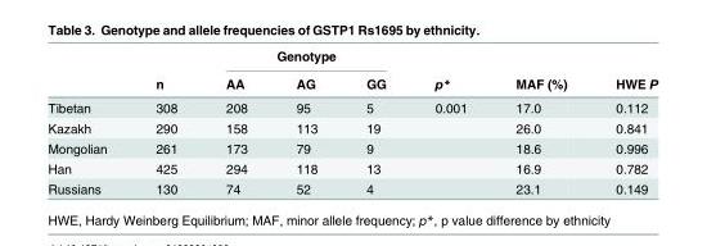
<table><thead><tr><td rowspan="2"></td><td rowspan="2">n</td><td colspan="3">Genotype</td><td rowspan="2">p*</td><td rowspan="2">MAF (%)</td><td rowspan="2">HWE P</td></tr><tr><td>AA</td><td>AG</td><td>GG</td></tr></thead><tbody><tr><td>Tibetan</td><td>308</td><td>208</td><td>95</td><td>5</td><td>0.001</td><td>17.0</td><td>0.112</td></tr><tr><td>Kazakh</td><td>290</td><td>158</td><td>113</td><td>19</td><td></td><td>26.0</td><td>0.841</td></tr><tr><td>Mongolian</td><td>261</td><td>173</td><td>79</td><td>9</td><td></td><td>18.6</td><td>0.996</td></tr><tr><td>Han</td><td>425</td><td>294</td><td>118</td><td>13</td><td></td><td>16.9</td><td>0.782</td></tr><tr><td>Russians</td><td>130</td><td>74</td><td>52</td><td>4</td><td></td><td>23.1</td><td>0.149</td></tr></tbody></table>